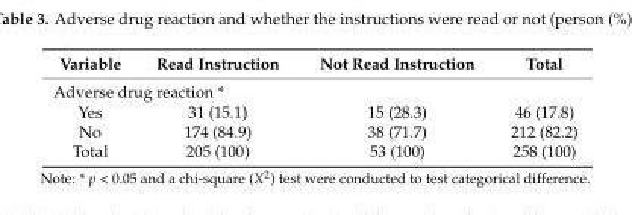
<table><thead><tr><td>Variable</td><td>Read Instruction</td><td>Not Read Instruction</td><td>Total</td></tr></thead><tbody><tr><td colspan="4">Adverse drug reaction *</td></tr><tr><td>Yes</td><td>31 (15.1)</td><td>15 (28.3)</td><td>46 (17.8)</td></tr><tr><td>No</td><td>174 (84.9)</td><td>38 (71.7)</td><td>212 (82.2)</td></tr><tr><td>Total</td><td>205 (100)</td><td>53 (100)</td><td>258 (100)</td></tr></tbody></table>